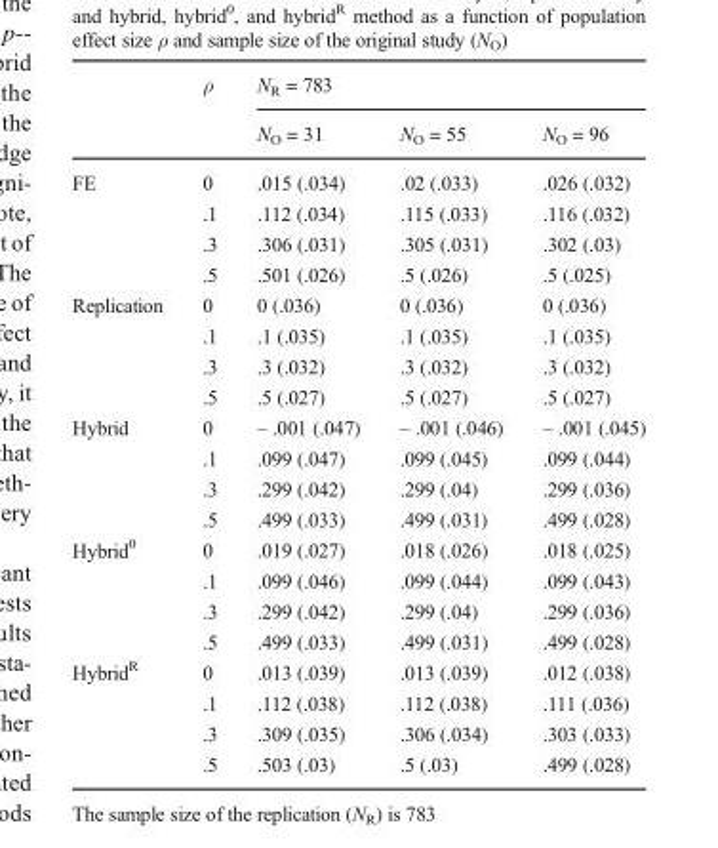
<table><thead><tr><td rowspan="2"></td><td rowspan="2">ρ</td><td colspan="3">N<sub>R</sub> = 783</td></tr><tr><td>N<sub>O</sub> = 31</td><td>N<sub>O</sub> = 55</td><td>N<sub>O</sub> = 96</td></tr></thead><tbody><tr><td rowspan="4">FE</td><td>0</td><td>.015 (.034)</td><td>.02 (.033)</td><td>.026 (.032)</td></tr><tr><td>.1</td><td>.112 (.034)</td><td>.115 (.033)</td><td>.116 (.032)</td></tr><tr><td>.3</td><td>.306 (.031)</td><td>.305 (.031)</td><td>.302 (.03)</td></tr><tr><td>.5</td><td>.501 (.026)</td><td>.5 (.026)</td><td>.5 (.025)</td></tr><tr><td rowspan="4">Replication</td><td>0</td><td>0 (.036)</td><td>0 (.036)</td><td>0 (.036)</td></tr><tr><td>.1</td><td>.1 (.035)</td><td>.1 (.035)</td><td>.1 (.035)</td></tr><tr><td>.3</td><td>.3 (.032)</td><td>.3 (.032)</td><td>.3 (.032)</td></tr><tr><td>.5</td><td>.5 (.027)</td><td>.5 (.027)</td><td>.5 (.027)</td></tr><tr><td rowspan="4">Hybrid</td><td>0</td><td>– .001 (.047)</td><td>– .001 (.046)</td><td>– .001 (.045)</td></tr><tr><td>.1</td><td>.099 (.047)</td><td>.099 (.045)</td><td>.099 (.044)</td></tr><tr><td>.3</td><td>.299 (.042)</td><td>.299 (.04)</td><td>.299 (.036)</td></tr><tr><td>.5</td><td>.499 (.033)</td><td>.499 (.031)</td><td>.499 (.028)</td></tr><tr><td rowspan="4">Hybrid<sup>0</sup></td><td>0</td><td>.019 (.027)</td><td>.018 (.026)</td><td>.018 (.025)</td></tr><tr><td>.1</td><td>.099 (.046)</td><td>.099 (.044)</td><td>.099 (.043)</td></tr><tr><td>.3</td><td>.299 (.042)</td><td>.299 (.04)</td><td>.299 (.036)</td></tr><tr><td>.5</td><td>.499 (.033)</td><td>.499 (.031)</td><td>.499 (.028)</td></tr><tr><td rowspan="4">Hybrid<sup>R</sup></td><td>0</td><td>.013 (.039)</td><td>.013 (.039)</td><td>.012 (.038)</td></tr><tr><td>.1</td><td>.112 (.038)</td><td>.112 (.038)</td><td>.111 (.036)</td></tr><tr><td>.3</td><td>.309 (.035)</td><td>.306 (.034)</td><td>.303 (.033)</td></tr><tr><td>.5</td><td>.503 (.03)</td><td>.5 (.03)</td><td>.499 (.028)</td></tr></tbody></table>